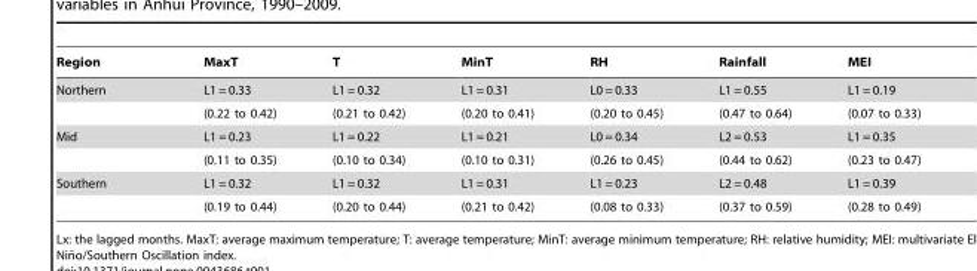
<table><thead><tr><td>Region</td><td>MaxT</td><td>T</td><td>MinT</td><td>RH</td><td>Rainfall</td><td>MEI</td></tr></thead><tbody><tr><td rowspan="2">Northern</td><td>L1 = 0.33</td><td>L1 = 0.32</td><td>L1 = 0.31</td><td>L0 = 0.33</td><td>L1 = 0.55</td><td>L1 = 0.19</td></tr><tr><td>(0.22 to 0.42)</td><td>(0.21 to 0.42)</td><td>(0.20 to 0.41)</td><td>(0.20 to 0.45)</td><td>(0.47 to 0.64)</td><td>(0.07 to 0.33)</td></tr><tr><td rowspan="2">Mid</td><td>L1 = 0.23</td><td>L1 = 0.22</td><td>L1 = 0.21</td><td>L0 = 0.34</td><td>L2 = 0.53</td><td>L1 = 0.35</td></tr><tr><td>(0.11 to 0.35)</td><td>(0.10 to 0.34)</td><td>(0.10 to 0.31)</td><td>(0.26 to 0.45)</td><td>(0.44 to 0.62)</td><td>(0.23 to 0.47)</td></tr><tr><td rowspan="2">Southern</td><td>L1 = 0.32</td><td>L1 = 0.32</td><td>L1 = 0.31</td><td>L1 = 0.23</td><td>L2 = 0.48</td><td>L1 = 0.39</td></tr><tr><td>(0.19 to 0.44)</td><td>(0.20 to 0.44)</td><td>(0.21 to 0.42)</td><td>(0.08 to 0.33)</td><td>(0.37 to 0.59)</td><td>(0.28 to 0.49)</td></tr></tbody></table>